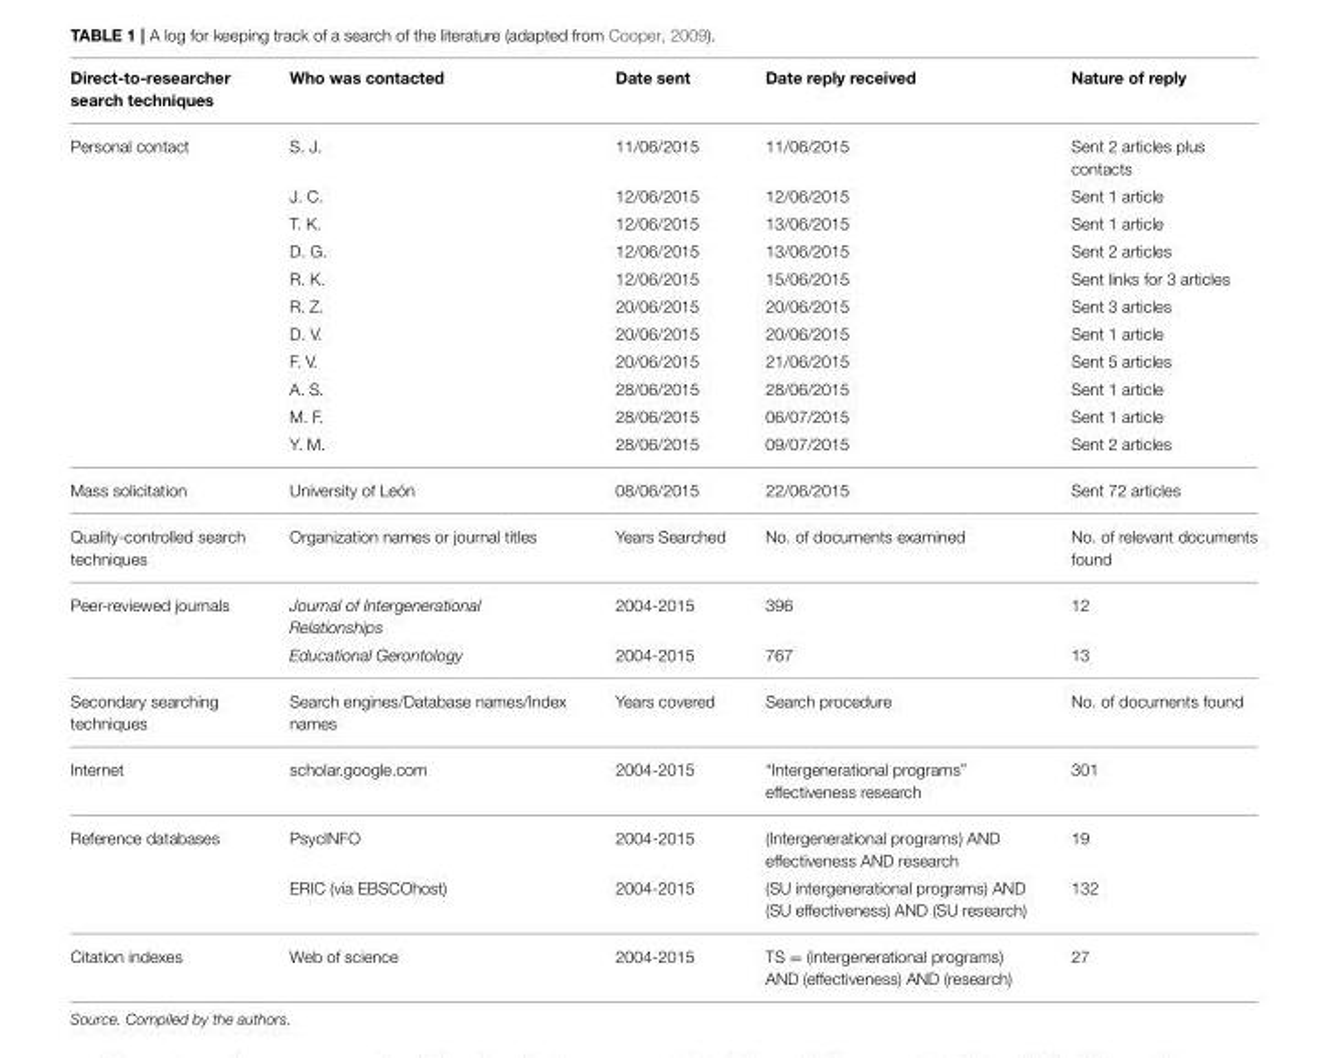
<table><thead><tr><td>Direct-to-researcher search techniques</td><td>Who was contacted</td><td>Date sent</td><td>Date reply received</td><td>Nature of reply</td></tr></thead><tbody><tr><td rowspan="11">Personal contact</td><td>S. J.</td><td>11/06/2015</td><td>11/06/2015</td><td>Sent 2 articles plus contacts</td></tr><tr><td>J. C.</td><td>12/06/2015</td><td>12/06/2015</td><td>Sent 1 article</td></tr><tr><td>T. K.</td><td>12/06/2015</td><td>13/06/2015</td><td>Sent 1 article</td></tr><tr><td>D. G.</td><td>12/06/2015</td><td>13/06/2015</td><td>Sent 2 articles</td></tr><tr><td>R. K.</td><td>12/06/2015</td><td>15/06/2015</td><td>Sent links for 3 articles</td></tr><tr><td>R. Z.</td><td>20/06/2015</td><td>20/06/2015</td><td>Sent 3 articles</td></tr><tr><td>D. V.</td><td>20/06/2015</td><td>20/06/2015</td><td>Sent 1 article</td></tr><tr><td>F. V.</td><td>20/06/2015</td><td>21/06/2015</td><td>Sent 5 articles</td></tr><tr><td>A. S.</td><td>28/06/2015</td><td>28/06/2015</td><td>Sent 1 article</td></tr><tr><td>M. F.</td><td>28/06/2015</td><td>06/07/2015</td><td>Sent 1 article</td></tr><tr><td>Y. M.</td><td>28/06/2015</td><td>09/07/2015</td><td>Sent 2 articles</td></tr><tr><td>Mass solicitation</td><td>University of León</td><td>08/06/2015</td><td>22/06/2015</td><td>Sent 72 articles</td></tr><tr><td>Quality-controlled search techniques</td><td>Organization names or journal titles</td><td>Years Searched</td><td>No. of documents examined</td><td>No. of relevant documents found</td></tr><tr><td rowspan="2">Peer-reviewed journals</td><td>Journal of Intergenerational Relationships</td><td>2004-2015</td><td>396</td><td>12</td></tr><tr><td>Educational Gerontology</td><td>2004-2015</td><td>767</td><td>13</td></tr><tr><td>Secondary searching techniques</td><td>Search engines/Database names/Index names</td><td>Years covered</td><td>Search procedure</td><td>No. of documents found</td></tr><tr><td>Internet</td><td>scholar.google.com</td><td>2004-2015</td><td>“Intergenerational programs” effectiveness research</td><td>301</td></tr><tr><td rowspan="2">Reference databases</td><td>PsycINFO</td><td>2004-2015</td><td>(Intergenerational programs) AND effectiveness AND research</td><td>19</td></tr><tr><td>ERIC (via EBSCOhost)</td><td>2004-2015</td><td>(SU intergenerational programs) AND (SU effectiveness) AND (SU research)</td><td>132</td></tr><tr><td>Citation indexes</td><td>Web of science</td><td>2004-2015</td><td>TS = (intergenerational programs) AND (effectiveness) AND (research)</td><td>27</td></tr></tbody></table>